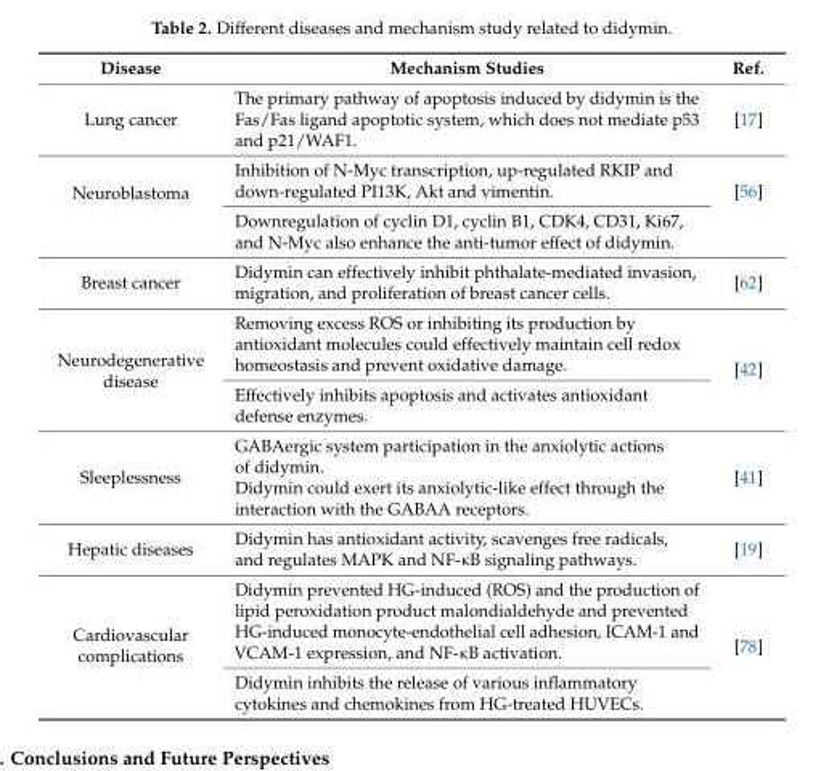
<table><thead><tr><td>Disease</td><td>Mechanism Studies</td><td>Ref.</td></tr></thead><tbody><tr><td>Lung cancer</td><td>The primary pathway of apoptosis induced by didymin is the Fas/Fas ligand apoptotic system, which does not mediate p53 and p21/WAF1.</td><td>[17]</td></tr><tr><td rowspan="2">Neuroblastoma</td><td>Inhibition of N-Myc transcription, up-regulated RKIP and down-regulated PI13K, Akt and vimentin.</td><td rowspan="2">[56]</td></tr><tr><td>Downregulation of cyclin D1, cyclin B1, CDK4, CD31, Ki67, and N-Myc also enhance the anti-tumor effect of didymin.</td></tr><tr><td>Breast cancer</td><td>Didymin can effectively inhibit phthalate-mediated invasion, migration, and proliferation of breast cancer cells.</td><td>[62]</td></tr><tr><td rowspan="2">Neurodegenerative disease</td><td>Removing excess ROS or inhibiting its production by antioxidant molecules could effectively maintain cell redox homeostasis and prevent oxidative damage.</td><td rowspan="2">[42]</td></tr><tr><td>Effectively inhibits apoptosis and activates antioxidant defense enzymes.</td></tr><tr><td>Sleeplessness</td><td>GABAergic system participation in the anxiolytic actions of didymin. Didymin could exert its anxiolytic-like effect through the interaction with the GABAA receptors.</td><td>[41]</td></tr><tr><td>Hepatic diseases</td><td>Didymin has antioxidant activity, scavenges free radicals, and regulates MAPK and NF-κB signaling pathways.</td><td>[19]</td></tr><tr><td rowspan="2">Cardiovascular complications</td><td>Didymin prevented HG-induced (ROS) and the production of lipid peroxidation product malondialdehyde and prevented HG-induced monocyte-endothelial cell adhesion, ICAM-1 and VCAM-1 expression, and NF-κB activation.</td><td rowspan="2">[78]</td></tr><tr><td>Didymin inhibits the release of various inflammatory cytokines and chemokines from HG-treated HUVECs.</td></tr></tbody></table>